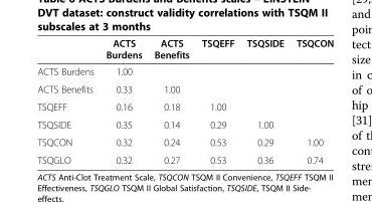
<table><thead><tr><td></td><td>ACTS Burdens</td><td>ACTS Benefits</td><td>TSQEFF</td><td>TSQSIDE</td><td>TSQCON</td></tr></thead><tbody><tr><td>ACTS Burdens</td><td>1.00</td><td></td><td></td><td></td><td></td></tr><tr><td>ACTS Benefits</td><td>0.33</td><td>1.00</td><td></td><td></td><td></td></tr><tr><td>TSQEFF</td><td>0.16</td><td>0.18</td><td>1.00</td><td></td><td></td></tr><tr><td>TSQSIDE</td><td>0.35</td><td>0.14</td><td>0.29</td><td>1.00</td><td></td></tr><tr><td>TSQCON</td><td>0.32</td><td>0.24</td><td>0.53</td><td>0.29</td><td>1.00</td></tr><tr><td>TSQGLO</td><td>0.32</td><td>0.27</td><td>0.53</td><td>0.36</td><td>0.74</td></tr></tbody></table>